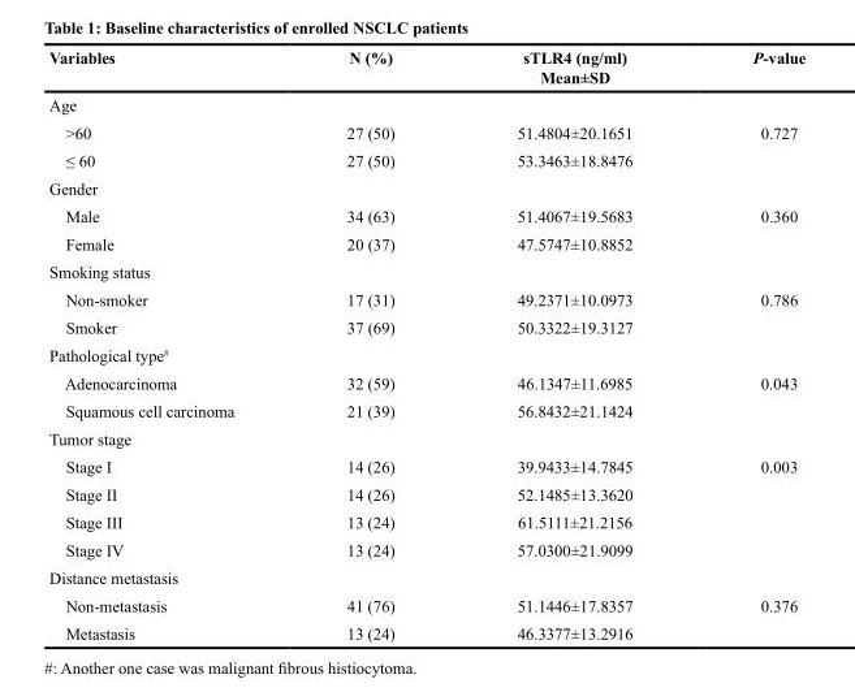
<table><thead><tr><td>Variables</td><td>N (%)</td><td>sTLR4 (ng/ml) Mean±SD</td><td>P-value</td></tr></thead><tbody><tr><td colspan="4">Age</td></tr><tr><td>&gt;60</td><td>27 (50)</td><td>51.4804±20.1651</td><td>0.727</td></tr><tr><td>≤ 60</td><td>27 (50)</td><td>53.3463±18.8476</td><td></td></tr><tr><td colspan="4">Gender</td></tr><tr><td>Male</td><td>34 (63)</td><td>51.4067±19.5683</td><td>0.360</td></tr><tr><td>Female</td><td>20 (37)</td><td>47.5747±10.8852</td><td></td></tr><tr><td colspan="4">Smoking status</td></tr><tr><td>Non-smoker</td><td>17 (31)</td><td>49.2371±10.0973</td><td>0.786</td></tr><tr><td>Smoker</td><td>37 (69)</td><td>50.3322±19.3127</td><td></td></tr><tr><td colspan="4">Pathological type<sup>#</sup></td></tr><tr><td>Adenocarcinoma</td><td>32 (59)</td><td>46.1347±11.6985</td><td>0.043</td></tr><tr><td>Squamous cell carcinoma</td><td>21 (39)</td><td>56.8432±21.1424</td><td></td></tr><tr><td colspan="4">Tumor stage</td></tr><tr><td>Stage I</td><td>14 (26)</td><td>39.9433±14.7845</td><td>0.003</td></tr><tr><td>Stage II</td><td>14 (26)</td><td>52.1485±13.3620</td><td></td></tr><tr><td>Stage III</td><td>13 (24)</td><td>61.5111±21.2156</td><td></td></tr><tr><td>Stage IV</td><td>13 (24)</td><td>57.0300±21.9099</td><td></td></tr><tr><td colspan="4">Distance metastasis</td></tr><tr><td>Non-metastasis</td><td>41 (76)</td><td>51.1446±17.8357</td><td>0.376</td></tr><tr><td>Metastasis</td><td>13 (24)</td><td>46.3377±13.2916</td><td></td></tr></tbody></table>